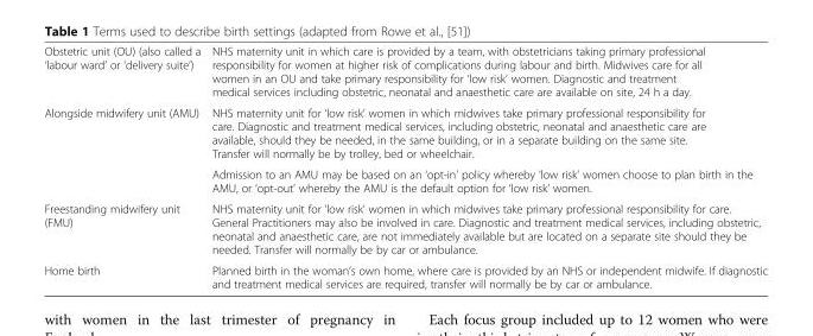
<table><tbody><tr><td>Obstetric unit (OU) (also called a ‘labour ward’ or ‘delivery suite’)</td><td>NHS maternity unit in which care is provided by a team, with obstetricians taking primary professional responsibility for women at higher risk of complications during labour and birth. Midwives care for all women in an OU and take primary responsibility for ‘low risk’ women. Diagnostic and treatment medical services including obstetric, neonatal and anaesthetic care are available on site, 24 h a day.</td></tr><tr><td rowspan="2">Alongside midwifery unit (AMU)</td><td>NHS maternity unit for ‘low risk’ women in which midwives take primary professional responsibility for care. Diagnostic and treatment medical services, including obstetric, neonatal and anaesthetic care are available, should they be needed, in the same building, or in a separate building on the same site. Transfer will normally be by trolley, bed or wheelchair.</td></tr><tr><td>Admission to an AMU may be based on an ‘opt-in’ policy whereby ‘low risk’ women choose to plan birth in the AMU, or ‘opt-out’ whereby the AMU is the default option for ‘low risk’ women.</td></tr><tr><td>Freestanding midwifery unit (FMU)</td><td>NHS maternity unit for ‘low risk’ women in which midwives take primary professional responsibility for care. General Practitioners may also be involved in care. Diagnostic and treatment medical services, including obstetric, neonatal and anaesthetic care, are not immediately available but are located on a separate site should they be needed. Transfer will normally be by car or ambulance.</td></tr><tr><td>Home birth</td><td>Planned birth in the woman’s own home, where care is provided by an NHS or independent midwife. If diagnostic and treatment medical services are required, transfer will normally be by car or ambulance.</td></tr></tbody></table>